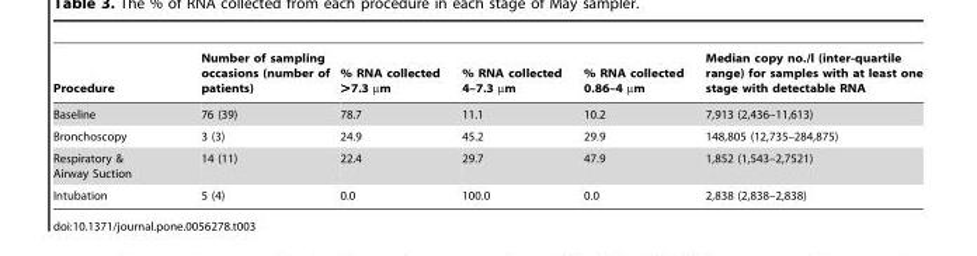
<table><thead><tr><td>Procedure</td><td>Number of sampling occasions (number of patients)</td><td>% RNA collected &gt;7.3 µm</td><td>% RNA collected 4–7.3 µm</td><td>% RNA collected 0.86–4 µm</td><td>Median copy no./l (inter-quartile range) for samples with at least one stage with detectable RNA</td></tr></thead><tbody><tr><td>Baseline</td><td>76 (39)</td><td>78.7</td><td>11.1</td><td>10.2</td><td>7,913 (2,436–11,613)</td></tr><tr><td>Bronchoscopy</td><td>3 (3)</td><td>24.9</td><td>45.2</td><td>29.9</td><td>148,805 (12,735–284,875)</td></tr><tr><td>Respiratory &amp; Airway Suction</td><td>14 (11)</td><td>22.4</td><td>29.7</td><td>47.9</td><td>1,852 (1,543–2,7521)</td></tr><tr><td>Intubation</td><td>5 (4)</td><td>0.0</td><td>100.0</td><td>0.0</td><td>2,838 (2,838–2,838)</td></tr></tbody></table>